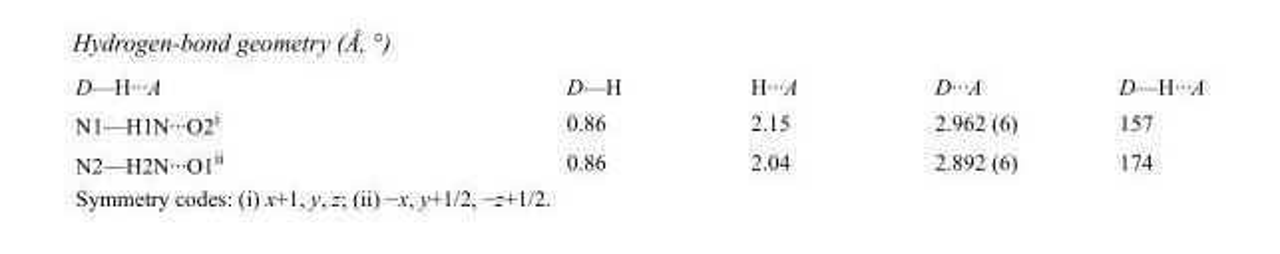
<table><tbody><tr><td>D—H···A</td><td>D—H</td><td>H···A</td><td>D···A</td><td>D—H···A</td></tr><tr><td>N1—H1N···O2<sup>i</sup></td><td>0.86</td><td>2.15</td><td>2.962 (6)</td><td>157</td></tr><tr><td>N2—H2N···O1<sup>ii</sup></td><td>0.86</td><td>2.04</td><td>2.892 (6)</td><td>174</td></tr></tbody></table>